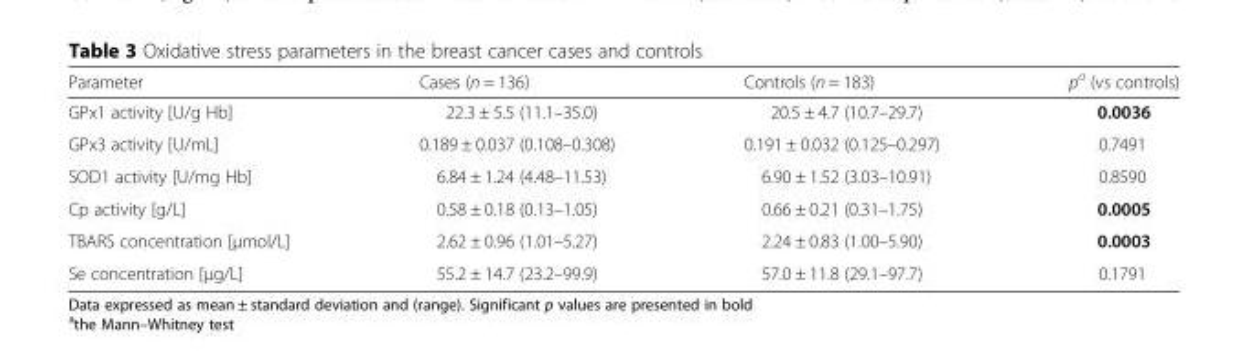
<table><thead><tr><td>Parameter</td><td>Cases (n = 136)</td><td>Controls (n = 183)</td><td>p<sup>a</sup> (vs controls)</td></tr></thead><tbody><tr><td>GPx1 activity [U/g Hb]</td><td>22.3 ± 5.5 (11.1–35.0)</td><td>20.5 ± 4.7 (10.7–29.7)</td><td>0.0036</td></tr><tr><td>GPx3 activity [U/mL]</td><td>0.189 ± 0.037 (0.108–0.308)</td><td>0.191 ± 0.032 (0.125–0.297)</td><td>0.7491</td></tr><tr><td>SOD1 activity [U/mg Hb]</td><td>6.84 ± 1.24 (4.48–11.53)</td><td>6.90 ± 1.52 (3.03–10.91)</td><td>0.8590</td></tr><tr><td>Cp activity [g/L]</td><td>0.58 ± 0.18 (0.13–1.05)</td><td>0.66 ± 0.21 (0.31–1.75)</td><td>0.0005</td></tr><tr><td>TBARS concentration [μmol/L]</td><td>2.62 ± 0.96 (1.01–5.27)</td><td>2.24 ± 0.83 (1.00–5.90)</td><td>0.0003</td></tr><tr><td>Se concentration [μg/L]</td><td>55.2 ± 14.7 (23.2–99.9)</td><td>57.0 ± 11.8 (29.1–97.7)</td><td>0.1791</td></tr></tbody></table>